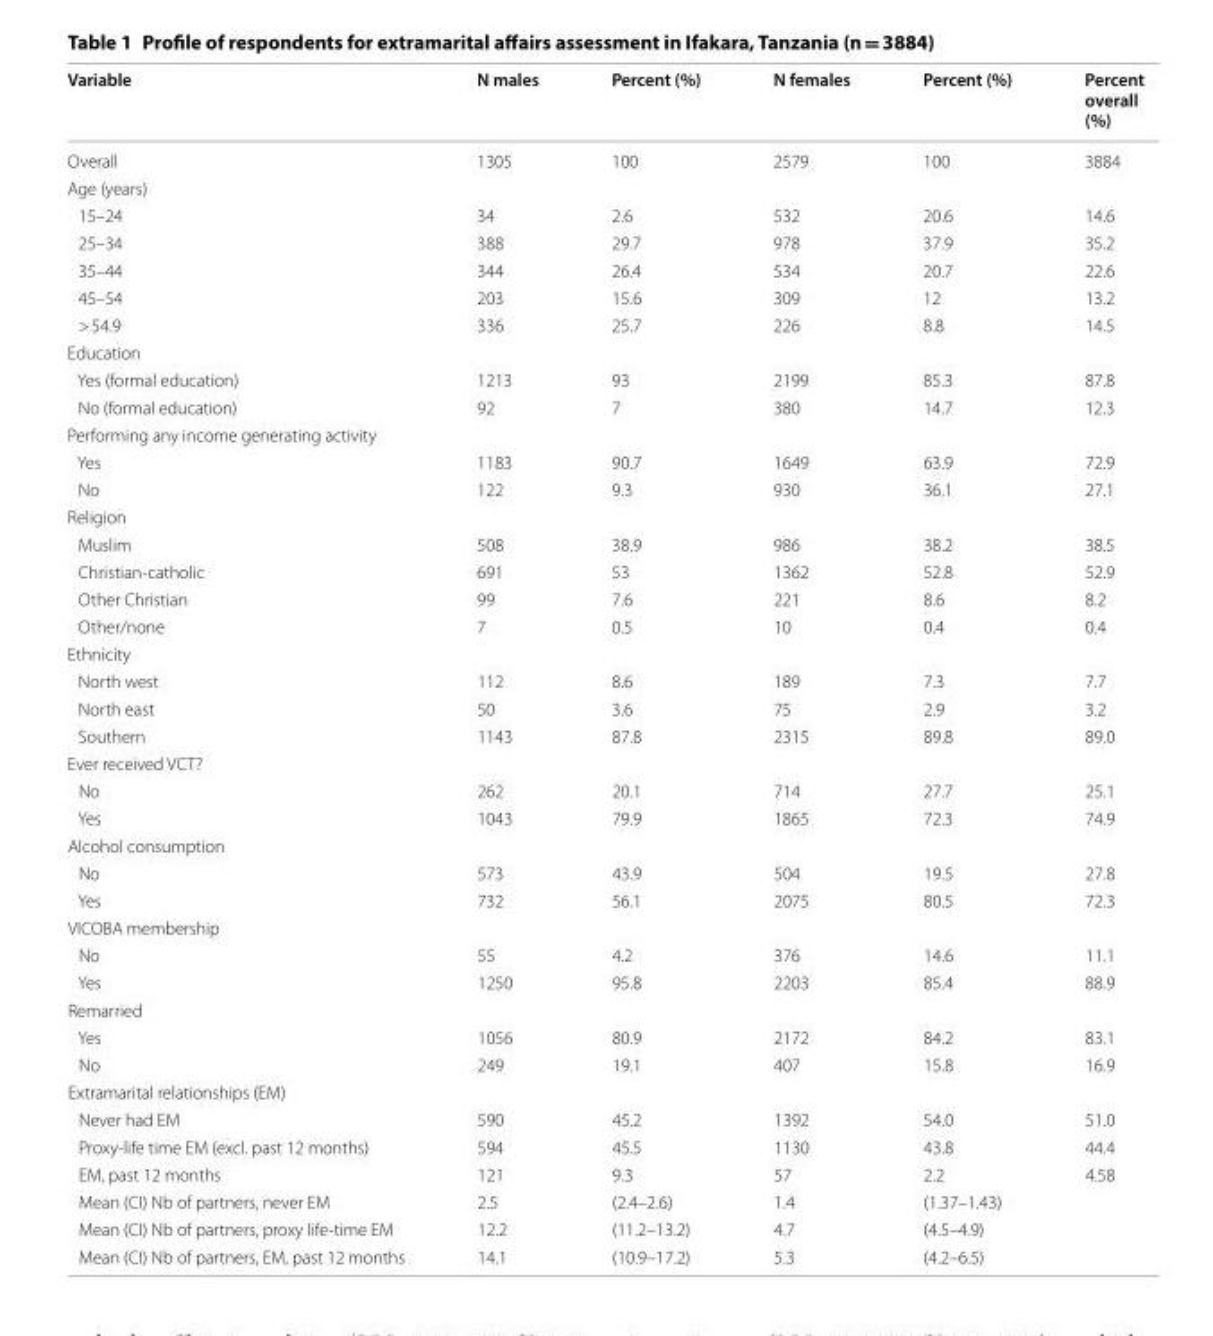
<table><thead><tr><td>Variable</td><td>N males</td><td>Percent (%)</td><td>N females</td><td>Percent (%)</td><td>Percent overall (%)</td></tr></thead><tbody><tr><td>Overall</td><td>1305</td><td>100</td><td>2579</td><td>100</td><td>3884</td></tr><tr><td colspan="6">Age (years)</td></tr><tr><td>15–24</td><td>34</td><td>2.6</td><td>532</td><td>20.6</td><td>14.6</td></tr><tr><td>25–34</td><td>388</td><td>29.7</td><td>978</td><td>37.9</td><td>35.2</td></tr><tr><td>35–44</td><td>344</td><td>26.4</td><td>534</td><td>20.7</td><td>22.6</td></tr><tr><td>45–54</td><td>203</td><td>15.6</td><td>309</td><td>12</td><td>13.2</td></tr><tr><td>&gt; 54.9</td><td>336</td><td>25.7</td><td>226</td><td>8.8</td><td>14.5</td></tr><tr><td colspan="6">Education</td></tr><tr><td>Yes (formal education)</td><td>1213</td><td>93</td><td>2199</td><td>85.3</td><td>87.8</td></tr><tr><td>No (formal education)</td><td>92</td><td>7</td><td>380</td><td>14.7</td><td>12.3</td></tr><tr><td colspan="6">Performing any income generating activity</td></tr><tr><td>Yes</td><td>1183</td><td>90.7</td><td>1649</td><td>63.9</td><td>72.9</td></tr><tr><td>No</td><td>122</td><td>9.3</td><td>930</td><td>36.1</td><td>27.1</td></tr><tr><td colspan="6">Religion</td></tr><tr><td>Muslim</td><td>508</td><td>38.9</td><td>986</td><td>38.2</td><td>38.5</td></tr><tr><td>Christian-catholic</td><td>691</td><td>53</td><td>1362</td><td>52.8</td><td>52.9</td></tr><tr><td>Other Christian</td><td>99</td><td>7.6</td><td>221</td><td>8.6</td><td>8.2</td></tr><tr><td>Other/none</td><td>7</td><td>0.5</td><td>10</td><td>0.4</td><td>0.4</td></tr><tr><td colspan="6">Ethnicity</td></tr><tr><td>North west</td><td>112</td><td>8.6</td><td>189</td><td>7.3</td><td>7.7</td></tr><tr><td>North east</td><td>50</td><td>3.6</td><td>75</td><td>2.9</td><td>3.2</td></tr><tr><td>Southern</td><td>1143</td><td>87.8</td><td>2315</td><td>89.8</td><td>89.0</td></tr><tr><td colspan="6">Ever received VCT?</td></tr><tr><td>No</td><td>262</td><td>20.1</td><td>714</td><td>27.7</td><td>25.1</td></tr><tr><td>Yes</td><td>1043</td><td>79.9</td><td>1865</td><td>72.3</td><td>74.9</td></tr><tr><td colspan="6">Alcohol consumption</td></tr><tr><td>No</td><td>573</td><td>43.9</td><td>504</td><td>19.5</td><td>27.8</td></tr><tr><td>Yes</td><td>732</td><td>56.1</td><td>2075</td><td>80.5</td><td>72.3</td></tr><tr><td colspan="6">VICOBA membership</td></tr><tr><td>No</td><td>55</td><td>4.2</td><td>376</td><td>14.6</td><td>11.1</td></tr><tr><td>Yes</td><td>1250</td><td>95.8</td><td>2203</td><td>85.4</td><td>88.9</td></tr><tr><td colspan="6">Remarried</td></tr><tr><td>Yes</td><td>1056</td><td>80.9</td><td>2172</td><td>84.2</td><td>83.1</td></tr><tr><td>No</td><td>249</td><td>19.1</td><td>407</td><td>15.8</td><td>16.9</td></tr><tr><td colspan="6">Extramarital relationships (EM)</td></tr><tr><td>Never had EM</td><td>590</td><td>45.2</td><td>1392</td><td>54.0</td><td>51.0</td></tr><tr><td>Proxy-life time EM (excl. past 12 months)</td><td>594</td><td>45.5</td><td>1130</td><td>43.8</td><td>44.4</td></tr><tr><td>EM, past 12 months</td><td>121</td><td>9.3</td><td>57</td><td>2.2</td><td>4.58</td></tr><tr><td>Mean (CI) Nb of partners, never EM</td><td>2.5</td><td>(2.4–2.6)</td><td>1.4</td><td>(1.37–1.43)</td><td></td></tr><tr><td>Mean (CI) Nb of partners, proxy life-time EM</td><td>12.2</td><td>(11.2–13.2)</td><td>4.7</td><td>(4.5–4.9)</td><td></td></tr><tr><td>Mean (CI) Nb of partners, EM, past 12 months</td><td>14.1</td><td>(10.9–17.2)</td><td>5.3</td><td>(4.2–6.5)</td><td></td></tr></tbody></table>